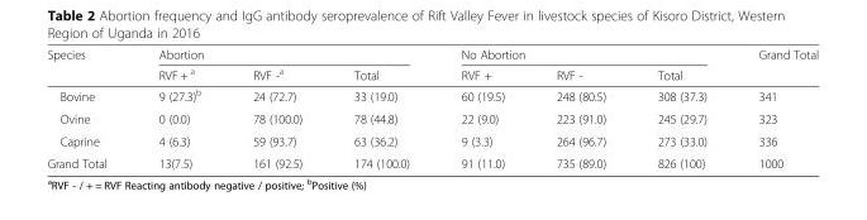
<table><thead><tr><td rowspan="2">Species</td><td colspan="3">Abortion</td><td colspan="3">No Abortion</td><td rowspan="2">Grand Total</td></tr><tr><td>RVF + <sup>a</sup></td><td>RVF -<sup>a</sup></td><td>Total</td><td>RVF +</td><td>RVF -</td><td>Total</td></tr></thead><tbody><tr><td>Bovine</td><td>9 (27.3)<sup>b</sup></td><td>24 (72.7)</td><td>33 (19.0)</td><td>60 (19.5)</td><td>248 (80.5)</td><td>308 (37.3)</td><td>341</td></tr><tr><td>Ovine</td><td>0 (0.0)</td><td>78 (100.0)</td><td>78 (44.8)</td><td>22 (9.0)</td><td>223 (91.0)</td><td>245 (29.7)</td><td>323</td></tr><tr><td>Caprine</td><td>4 (6.3)</td><td>59 (93.7)</td><td>63 (36.2)</td><td>9 (3.3)</td><td>264 (96.7)</td><td>273 (33.0)</td><td>336</td></tr><tr><td>Grand Total</td><td>13(7.5)</td><td>161 (92.5)</td><td>174 (100.0)</td><td>91 (11.0)</td><td>735 (89.0)</td><td>826 (100)</td><td>1000</td></tr></tbody></table>